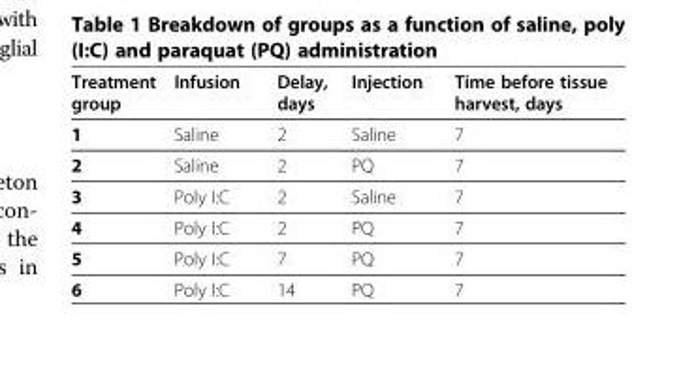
<table><thead><tr><td>Treatment group</td><td>Infusion</td><td>Delay, days</td><td>Injection</td><td>Time before tissue harvest, days</td></tr></thead><tbody><tr><td>1</td><td>Saline</td><td>2</td><td>Saline</td><td>7</td></tr><tr><td>2</td><td>Saline</td><td>2</td><td>PQ</td><td>7</td></tr><tr><td>3</td><td>Poly I:C</td><td>2</td><td>Saline</td><td>7</td></tr><tr><td>4</td><td>Poly I:C</td><td>2</td><td>PQ</td><td>7</td></tr><tr><td>5</td><td>Poly I:C</td><td>7</td><td>PQ</td><td>7</td></tr><tr><td>6</td><td>Poly I:C</td><td>14</td><td>PQ</td><td>7</td></tr></tbody></table>